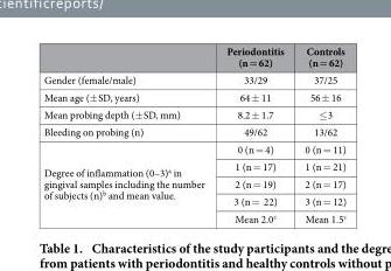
<table><thead><tr><td></td><td>Periodontitis (n = 62)</td><td>Controls (n = 62)</td></tr></thead><tbody><tr><td>Gender (female/male)</td><td>33/29</td><td>37/25</td></tr><tr><td>Mean age (± SD, years)</td><td>64 ± 11</td><td>56 ± 16</td></tr><tr><td>Mean probing depth (± SD, mm)</td><td>8.2 ± 1.7</td><td>≤ 3</td></tr><tr><td>Bleeding on probing (n)</td><td>49/62</td><td>13/62</td></tr><tr><td rowspan="5">Degree of inflammation (0–3)<sup>a</sup> in gingival samples including the number of subjects (n)<sup>b</sup> and mean value.</td><td>0 (n = 4)</td><td>0 (n = 11)</td></tr><tr><td>1 (n = 17)</td><td>1 (n = 21)</td></tr><tr><td>2 (n = 19)</td><td>2 (n = 17)</td></tr><tr><td>3 (n = 22)</td><td>3 (n = 12)</td></tr><tr><td>Mean 2.0<sup>c</sup></td><td>Mean 1.5<sup>c</sup></td></tr></tbody></table>